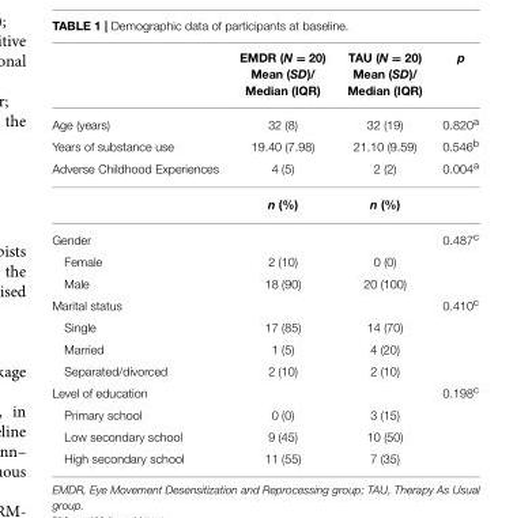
<table><thead><tr><td></td><td>EMDR (N = 20) Mean (SD)/ Median (IQR)</td><td>TAU (N = 20) Mean (SD)/ Median (IQR)</td><td>p</td></tr></thead><tbody><tr><td>Age (years)</td><td>32 (8)</td><td>32 (19)</td><td>0.820<sup>a</sup></td></tr><tr><td>Years of substance use</td><td>19.40 (7.98)</td><td>21.10 (9.59)</td><td>0.546<sup>b</sup></td></tr><tr><td rowspan="2">Adverse Childhood Experiences</td><td>4 (5)</td><td>2 (2)</td><td>0.004<sup>a</sup></td></tr><tr><td>n (%)</td><td>n (%)</td><td></td></tr><tr><td>Gender</td><td></td><td></td><td>0.487<sup>c</sup></td></tr><tr><td>Female</td><td>2 (10)</td><td>0 (0)</td><td></td></tr><tr><td>Male</td><td>18 (90)</td><td>20 (100)</td><td></td></tr><tr><td>Marital status</td><td></td><td></td><td>0.410<sup>c</sup></td></tr><tr><td>Single</td><td>17 (85)</td><td>14 (70)</td><td></td></tr><tr><td>Married</td><td>1 (5)</td><td>4 (20)</td><td></td></tr><tr><td>Separated/divorced</td><td>2 (10)</td><td>2 (10)</td><td></td></tr><tr><td>Level of education</td><td></td><td></td><td>0.198<sup>c</sup></td></tr><tr><td>Primary school</td><td>0 (0)</td><td>3 (15)</td><td></td></tr><tr><td>Low secondary school</td><td>9 (45)</td><td>10 (50)</td><td></td></tr><tr><td>High secondary school</td><td>11 (55)</td><td>7 (35)</td><td></td></tr></tbody></table>